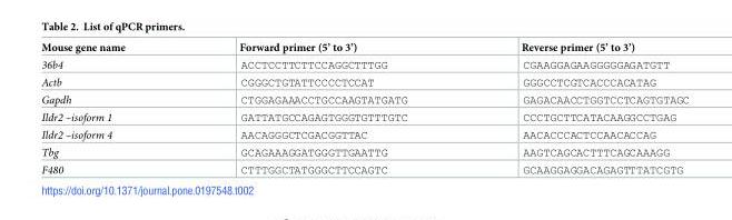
<table><thead><tr><td>Mouse gene name</td><td>Forward primer (5’ to 3’)</td><td>Reverse primer (5’ to 3’)</td></tr></thead><tbody><tr><td>36b4</td><td>ACCTCCTTCTTCCAGGCTTTGG</td><td>CGAAGGAGAAGGGGGAGATGTT</td></tr><tr><td>Actb</td><td>CGGGCTGTATTCCCCTCCAT</td><td>GGGCCTCGTCACCCACATAG</td></tr><tr><td>Gapdh</td><td>CTGGAGAAACCTGCCAAGTATGATG</td><td>GAGACAACCTGGTCCTCAGTGTAGC</td></tr><tr><td>Ildr2 –isoform 1</td><td>GATTATGCCAGAGTGGGTGTTTGTC</td><td>CCCTGCTTCATACAAGGCCTGAG</td></tr><tr><td>Ildr2 –isoform 4</td><td>AACAGGGCTCGACGGTTAC</td><td>AACACCCACTCCAACACCAG</td></tr><tr><td>Tbg</td><td>GCAGAAAGGATGGGTTGAATTG</td><td>AAGTCAGCACTTTCAGCAAAGG</td></tr><tr><td>F480</td><td>CTTTGGCTATGGGCTTCCAGTC</td><td>GCAAGGAGGACAGAGTTTATCGTG</td></tr></tbody></table>